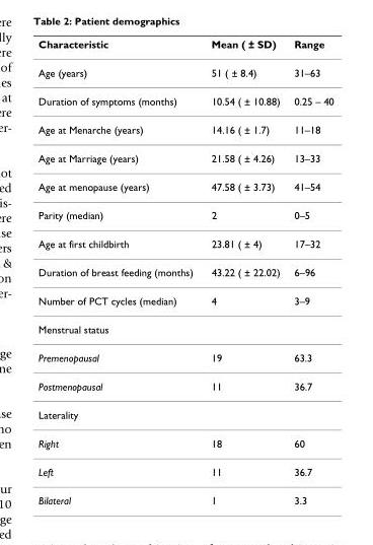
<table><thead><tr><td>Characteristic</td><td>Mean ( ± SD)</td><td>Range</td></tr></thead><tbody><tr><td>Age (years)</td><td>51 ( ± 8.4)</td><td>31–63</td></tr><tr><td>Duration of symptoms (months)</td><td>10.54 ( ± 10.88)</td><td>0.25 – 40</td></tr><tr><td>Age at Menarche (years)</td><td>14.16 ( ± 1.7)</td><td>11–18</td></tr><tr><td>Age at Marriage (years)</td><td>21.58 ( ± 4.26)</td><td>13–33</td></tr><tr><td>Age at menopause (years)</td><td>47.58 ( ± 3.73)</td><td>41–54</td></tr><tr><td>Parity (median)</td><td>2</td><td>0–5</td></tr><tr><td>Age at first childbirth</td><td>23.81 ( ± 4)</td><td>17–32</td></tr><tr><td>Duration of breast feeding (months)</td><td>43.22 ( ± 22.02)</td><td>6–96</td></tr><tr><td>Number of PCT cycles (median)</td><td>4</td><td>3–9</td></tr><tr><td colspan="3">Menstrual status</td></tr><tr><td>Premenopausal</td><td>19</td><td>63.3</td></tr><tr><td>Postmenopausal</td><td>11</td><td>36.7</td></tr><tr><td colspan="3">Laterality</td></tr><tr><td>Right</td><td>18</td><td>60</td></tr><tr><td>Left</td><td>11</td><td>36.7</td></tr><tr><td>Bilateral</td><td>1</td><td>3.3</td></tr></tbody></table>